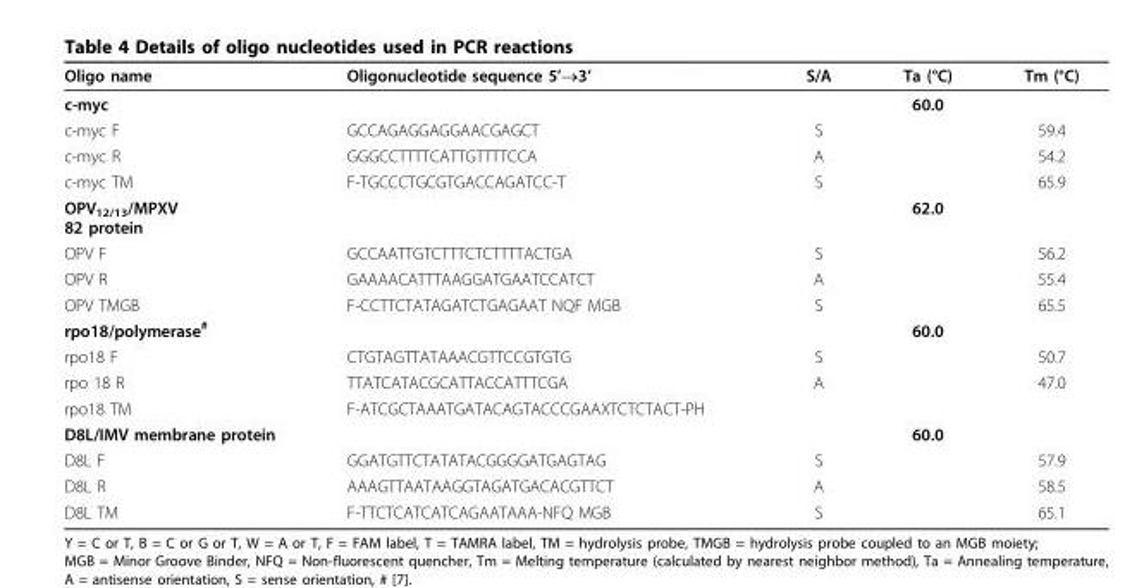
<table><thead><tr><td>Oligo name</td><td>Oligonucleotide sequence 5’→3’</td><td>S/A</td><td>Ta (°C)</td><td>Tm (°C)</td></tr></thead><tbody><tr><td>c-myc</td><td></td><td></td><td>60.0</td><td></td></tr><tr><td>c-myc F</td><td>GCCAGAGGAGGAACGAGCT</td><td>S</td><td></td><td>59.4</td></tr><tr><td>c-myc R</td><td>GGGCCTTTTCATTGTTTTCCA</td><td>A</td><td></td><td>54.2</td></tr><tr><td>c-myc TM</td><td>F-TGCCCTGCGTGACCAGATCC-T</td><td>S</td><td></td><td>65.9</td></tr><tr><td>OPV<sub>12/13</sub>/MPXV 82 protein</td><td></td><td></td><td>62.0</td><td></td></tr><tr><td>OPV F</td><td>GCCAATTGTCTTTCTCTTTTACTGA</td><td>S</td><td></td><td>56.2</td></tr><tr><td>OPV R</td><td>GAAAACATTTAAGGATGAATCCATCT</td><td>A</td><td></td><td>55.4</td></tr><tr><td>OPV TMGB</td><td>F-CCTTCTATAGATCTGAGAAT NQF MGB</td><td>S</td><td></td><td>65.5</td></tr><tr><td>rpo18/polymerase<sup>#</sup></td><td></td><td></td><td>60.0</td><td></td></tr><tr><td>rpo18 F</td><td>CTGTAGTTATAAACGTTCCGTGTG</td><td>S</td><td></td><td>50.7</td></tr><tr><td>rpo 18 R</td><td>TTATCATACGCATTACCATTTCGA</td><td>A</td><td></td><td>47.0</td></tr><tr><td>rpo18 TM</td><td>F-ATCGCTAAATGATACAGTACCCGAAXTCTCTACT-PH</td><td></td><td></td><td></td></tr><tr><td>D8L/IMV membrane protein</td><td></td><td></td><td>60.0</td><td></td></tr><tr><td>D8L F</td><td>GGATGTTCTATATACGGGGATGAGTAG</td><td>S</td><td></td><td>57.9</td></tr><tr><td>D8L R</td><td>AAAGTTAATAAGGTAGATGACACGTTCT</td><td>A</td><td></td><td>58.5</td></tr><tr><td>D8L TM</td><td>F-TTCTCATCATCAGAATAAA-NFQ MGB</td><td>S</td><td></td><td>65.1</td></tr></tbody></table>